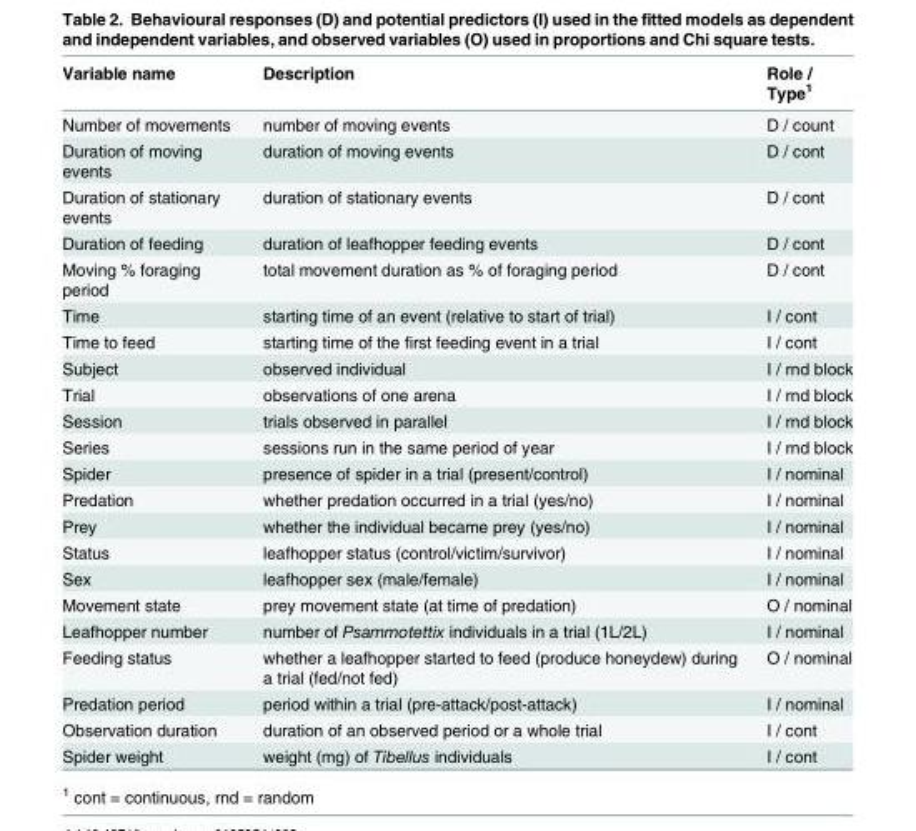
<table><thead><tr><td>Variable name</td><td>Description</td><td>Role / Type<sup>1</sup></td></tr></thead><tbody><tr><td>Number of movements</td><td>number of moving events</td><td>D / count</td></tr><tr><td>Duration of moving events</td><td>duration of moving events</td><td>D / cont</td></tr><tr><td>Duration of stationary events</td><td>duration of stationary events</td><td>D / cont</td></tr><tr><td>Duration of feeding</td><td>duration of leafhopper feeding events</td><td>D / cont</td></tr><tr><td>Moving % foraging period</td><td>total movement duration as % of foraging period</td><td>D / cont</td></tr><tr><td>Time</td><td>starting time of an event (relative to start of trial)</td><td>I / cont</td></tr><tr><td>Time to feed</td><td>starting time of the first feeding event in a trial</td><td>I / cont</td></tr><tr><td>Subject</td><td>observed individual</td><td>I / rnd block</td></tr><tr><td>Trial</td><td>observations of one arena</td><td>I / rnd block</td></tr><tr><td>Session</td><td>trials observed in parallel</td><td>I / rnd block</td></tr><tr><td>Series</td><td>sessions run in the same period of year</td><td>I / rnd block</td></tr><tr><td>Spider</td><td>presence of spider in a trial (present/control)</td><td>I / nominal</td></tr><tr><td>Predation</td><td>whether predation occurred in a trial (yes/no)</td><td>I / nominal</td></tr><tr><td>Prey</td><td>whether the individual became prey (yes/no)</td><td>I / nominal</td></tr><tr><td>Status</td><td>leafhopper status (control/victim/survivor)</td><td>I / nominal</td></tr><tr><td>Sex</td><td>leafhopper sex (male/female)</td><td>I / nominal</td></tr><tr><td>Movement state</td><td>prey movement state (at time of predation)</td><td>O / nominal</td></tr><tr><td>Leafhopper number</td><td>number of Psammotettix individuals in a trial (1L/2L)</td><td>I / nominal</td></tr><tr><td>Feeding status</td><td>whether a leafhopper started to feed (produce honeydew) during a trial (fed/not fed)</td><td>O / nominal</td></tr><tr><td>Predation period</td><td>period within a trial (pre-attack/post-attack)</td><td>I / nominal</td></tr><tr><td>Observation duration</td><td>duration of an observed period or a whole trial</td><td>I / cont</td></tr><tr><td>Spider weight</td><td>weight (mg) of Tibellus individuals</td><td>I / cont</td></tr></tbody></table>